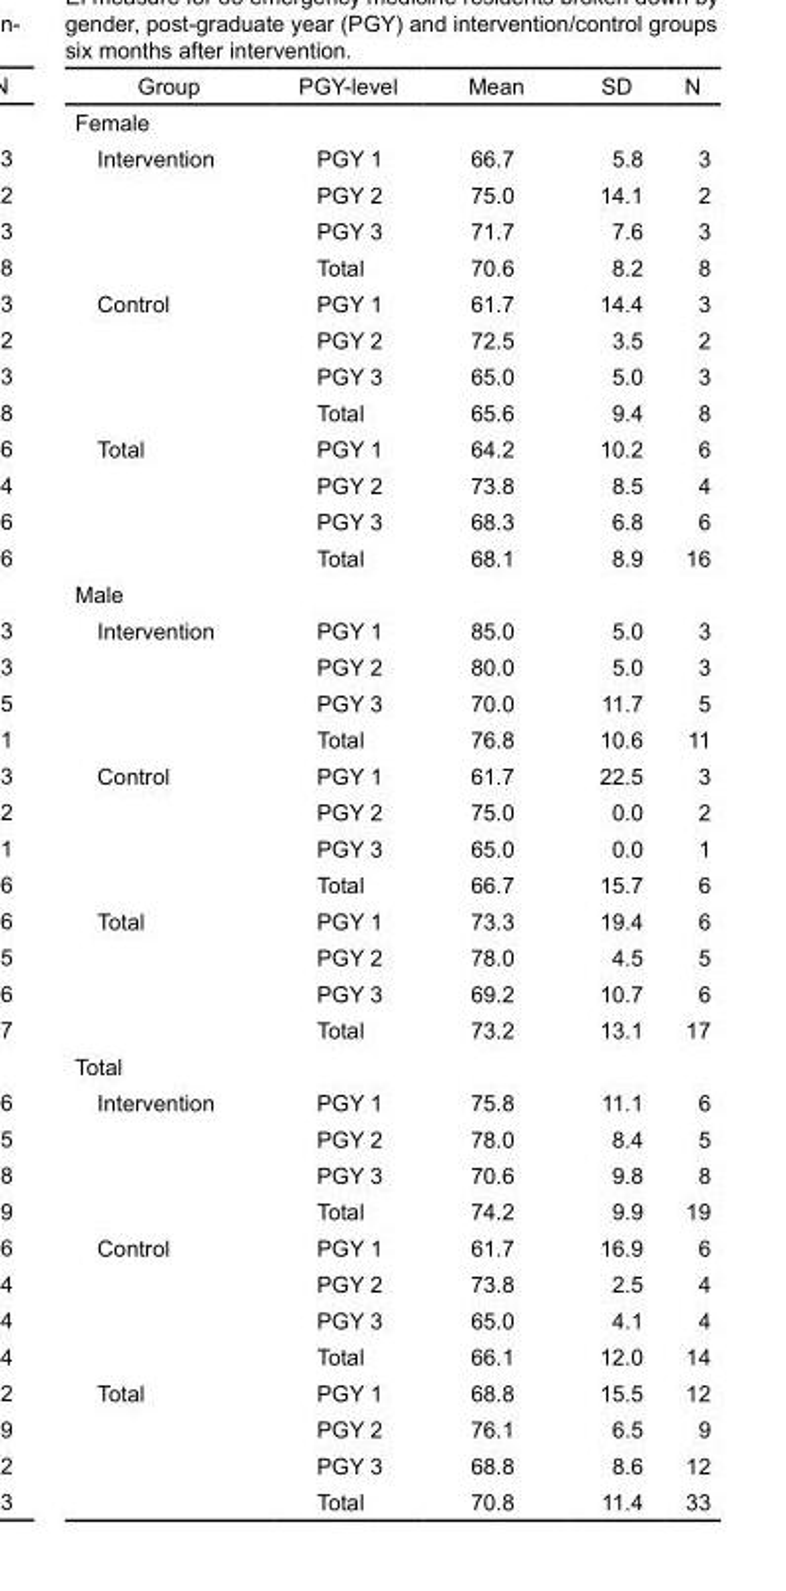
<table><thead><tr><td>Group</td><td>PGY-level</td><td>Mean</td><td>SD</td><td>N</td></tr></thead><tbody><tr><td colspan="5">Female</td></tr><tr><td rowspan="4">Intervention</td><td>PGY 1</td><td>66.7</td><td>5.8</td><td>3</td></tr><tr><td>PGY 2</td><td>75.0</td><td>14.1</td><td>2</td></tr><tr><td>PGY 3</td><td>71.7</td><td>7.6</td><td>3</td></tr><tr><td>Total</td><td>70.6</td><td>8.2</td><td>8</td></tr><tr><td rowspan="4">Control</td><td>PGY 1</td><td>61.7</td><td>14.4</td><td>3</td></tr><tr><td>PGY 2</td><td>72.5</td><td>3.5</td><td>2</td></tr><tr><td>PGY 3</td><td>65.0</td><td>5.0</td><td>3</td></tr><tr><td>Total</td><td>65.6</td><td>9.4</td><td>8</td></tr><tr><td rowspan="4">Total</td><td>PGY 1</td><td>64.2</td><td>10.2</td><td>6</td></tr><tr><td>PGY 2</td><td>73.8</td><td>8.5</td><td>4</td></tr><tr><td>PGY 3</td><td>68.3</td><td>6.8</td><td>6</td></tr><tr><td>Total</td><td>68.1</td><td>8.9</td><td>16</td></tr><tr><td colspan="5">Male</td></tr><tr><td rowspan="4">Intervention</td><td>PGY 1</td><td>85.0</td><td>5.0</td><td>3</td></tr><tr><td>PGY 2</td><td>80.0</td><td>5.0</td><td>3</td></tr><tr><td>PGY 3</td><td>70.0</td><td>11.7</td><td>5</td></tr><tr><td>Total</td><td>76.8</td><td>10.6</td><td>11</td></tr><tr><td rowspan="4">Control</td><td>PGY 1</td><td>61.7</td><td>22.5</td><td>3</td></tr><tr><td>PGY 2</td><td>75.0</td><td>0.0</td><td>2</td></tr><tr><td>PGY 3</td><td>65.0</td><td>0.0</td><td>1</td></tr><tr><td>Total</td><td>66.7</td><td>15.7</td><td>6</td></tr><tr><td rowspan="4">Total</td><td>PGY 1</td><td>73.3</td><td>19.4</td><td>6</td></tr><tr><td>PGY 2</td><td>78.0</td><td>4.5</td><td>5</td></tr><tr><td>PGY 3</td><td>69.2</td><td>10.7</td><td>6</td></tr><tr><td>Total</td><td>73.2</td><td>13.1</td><td>17</td></tr><tr><td colspan="5">Total</td></tr><tr><td rowspan="4">Intervention</td><td>PGY 1</td><td>75.8</td><td>11.1</td><td>6</td></tr><tr><td>PGY 2</td><td>78.0</td><td>8.4</td><td>5</td></tr><tr><td>PGY 3</td><td>70.6</td><td>9.8</td><td>8</td></tr><tr><td>Total</td><td>74.2</td><td>9.9</td><td>19</td></tr><tr><td rowspan="4">Control</td><td>PGY 1</td><td>61.7</td><td>16.9</td><td>6</td></tr><tr><td>PGY 2</td><td>73.8</td><td>2.5</td><td>4</td></tr><tr><td>PGY 3</td><td>65.0</td><td>4.1</td><td>4</td></tr><tr><td>Total</td><td>66.1</td><td>12.0</td><td>14</td></tr><tr><td rowspan="4">Total</td><td>PGY 1</td><td>68.8</td><td>15.5</td><td>12</td></tr><tr><td>PGY 2</td><td>76.1</td><td>6.5</td><td>9</td></tr><tr><td>PGY 3</td><td>68.8</td><td>8.6</td><td>12</td></tr><tr><td>Total</td><td>70.8</td><td>11.4</td><td>33</td></tr></tbody></table>